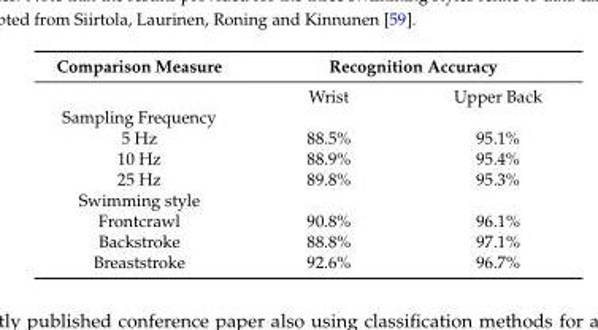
<table><thead><tr><td rowspan="2">Comparison Measure</td><td colspan="2">Recognition Accuracy</td></tr><tr><td>Wrist</td><td>Upper Back</td></tr></thead><tbody><tr><td colspan="3">Sampling Frequency</td></tr><tr><td>5 Hz</td><td>88.5%</td><td>95.1%</td></tr><tr><td>10 Hz</td><td>88.9%</td><td>95.4%</td></tr><tr><td>25 Hz</td><td>89.8%</td><td>95.3%</td></tr><tr><td colspan="3">Swimming style</td></tr><tr><td>Frontcrawl</td><td>90.8%</td><td>96.1%</td></tr><tr><td>Backstroke</td><td>88.8%</td><td>97.1%</td></tr><tr><td>Breaststroke</td><td>92.6%</td><td>96.7%</td></tr></tbody></table>